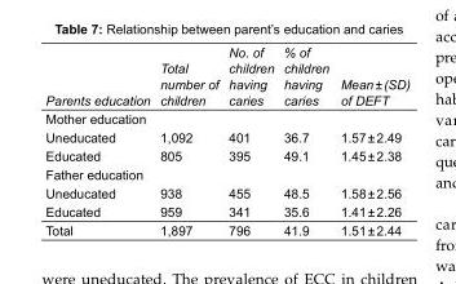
<table><tbody><tr><td>Parents education</td><td>Total number of children</td><td>No. of children having caries</td><td>% of children having caries</td><td>Mean ± (SD) of DEFT</td></tr><tr><td colspan="5">Mother education</td></tr><tr><td>Uneducated</td><td>1,092</td><td>401</td><td>36.7</td><td>1.57 ± 2.49</td></tr><tr><td>Educated</td><td>805</td><td>395</td><td>49.1</td><td>1.45 ± 2.38</td></tr><tr><td colspan="5">Father education</td></tr><tr><td>Uneducated</td><td>938</td><td>455</td><td>48.5</td><td>1.58 ± 2.56</td></tr><tr><td>Educated</td><td>959</td><td>341</td><td>35.6</td><td>1.41 ± 2.26</td></tr><tr><td>Total</td><td>1,897</td><td>796</td><td>41.9</td><td>1.51 ± 2.44</td></tr></tbody></table>